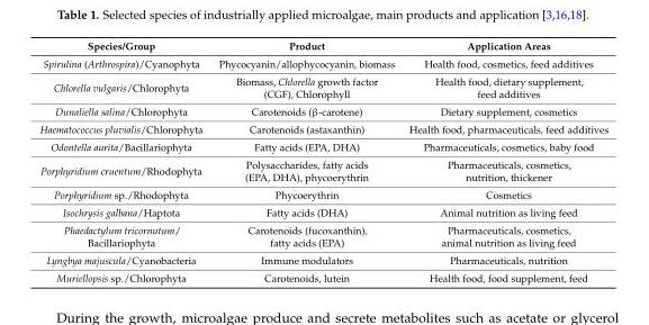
<table><thead><tr><td>Species/Group</td><td>Product</td><td>Application Areas</td></tr></thead><tbody><tr><td>Spirulina (Arthrospira)/Cyanophyta</td><td>Phycocyanin/allophycocyanin, biomass</td><td>Health food, cosmetics, feed additives</td></tr><tr><td>Chlorella vulgaris/Chlorophyta</td><td>Biomass, Chlorella growth factor (CGF), Chlorophyll</td><td>Health food, dietary supplement, feed additives</td></tr><tr><td>Dunaliella salina/Chlorophyta</td><td>Carotenoids (β-carotene)</td><td>Dietary supplement, cosmetics</td></tr><tr><td>Haematococcus pluvialis/Chlorophyta</td><td>Carotenoids (astaxanthin)</td><td>Health food, pharmaceuticals, feed additives</td></tr><tr><td>Odontella aurita/Bacillariophyta</td><td>Fatty acids (EPA, DHA)</td><td>Pharmaceuticals, cosmetics, baby food</td></tr><tr><td>Porphyridium cruentum/Rhodophyta</td><td>Polysaccharides, fatty acids (EPA, DHA), phycoerythrin</td><td>Pharmaceuticals, cosmetics, nutrition, thickener</td></tr><tr><td>Porphyridium sp./Rhodophyta</td><td>Phycoerythrin</td><td>Cosmetics</td></tr><tr><td>Isochrysis galbana/Haptota</td><td>Fatty acids (DHA)</td><td>Animal nutrition as living feed</td></tr><tr><td>Phaedactylum tricornutum/ Bacillariophyta</td><td>Carotenoids (fucoxanthin), fatty acids (EPA)</td><td>Pharmaceuticals, cosmetics, animal nutrition as living feed</td></tr><tr><td>Lyngbya majuscula/Cyanobacteria</td><td>Immune modulators</td><td>Pharmaceuticals, nutrition</td></tr><tr><td>Muriellopsis sp./Chlorophyta</td><td>Carotenoids, lutein</td><td>Health food, food supplement, feed</td></tr></tbody></table>